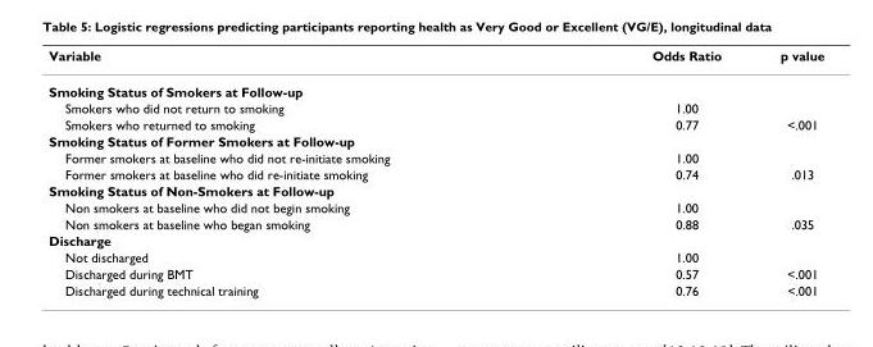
<table><thead><tr><td>Variable</td><td>Odds Ratio</td><td>p value</td></tr></thead><tbody><tr><td colspan="3">Smoking Status of Smokers at Follow-up</td></tr><tr><td>Smokers who did not return to smoking</td><td>1.00</td><td></td></tr><tr><td>Smokers who returned to smoking</td><td>0.77</td><td>&lt;.001</td></tr><tr><td colspan="3">Smoking Status of Former Smokers at Follow-up</td></tr><tr><td>Former smokers at baseline who did not re-initiate smoking</td><td>1.00</td><td></td></tr><tr><td>Former smokers at baseline who did re-initiate smoking</td><td>0.74</td><td>.013</td></tr><tr><td colspan="3">Smoking Status of Non-Smokers at Follow-up</td></tr><tr><td>Non smokers at baseline who did not begin smoking</td><td>1.00</td><td></td></tr><tr><td>Non smokers at baseline who began smoking</td><td>0.88</td><td>.035</td></tr><tr><td colspan="3">Discharge</td></tr><tr><td>Not discharged</td><td>1.00</td><td></td></tr><tr><td>Discharged during BMT</td><td>0.57</td><td>&lt;.001</td></tr><tr><td>Discharged during technical training</td><td>0.76</td><td>&lt;.001</td></tr></tbody></table>